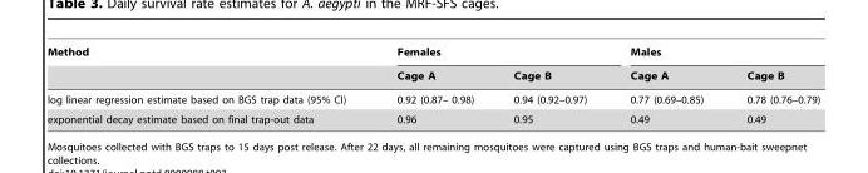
<table><thead><tr><td rowspan="2">Method</td><td colspan="2">Females</td><td colspan="2">Males</td></tr><tr><td>Cage A</td><td>Cage B</td><td>Cage A</td><td>Cage B</td></tr></thead><tbody><tr><td>log linear regression estimate based on BGS trap data (95% CI)</td><td>0.92 (0.87– 0.98)</td><td>0.94 (0.92–0.97)</td><td>0.77 (0.69–0.85)</td><td>0.78 (0.76–0.79)</td></tr><tr><td>exponential decay estimate based on final trap-out data</td><td>0.96</td><td>0.95</td><td>0.49</td><td>0.49</td></tr></tbody></table>